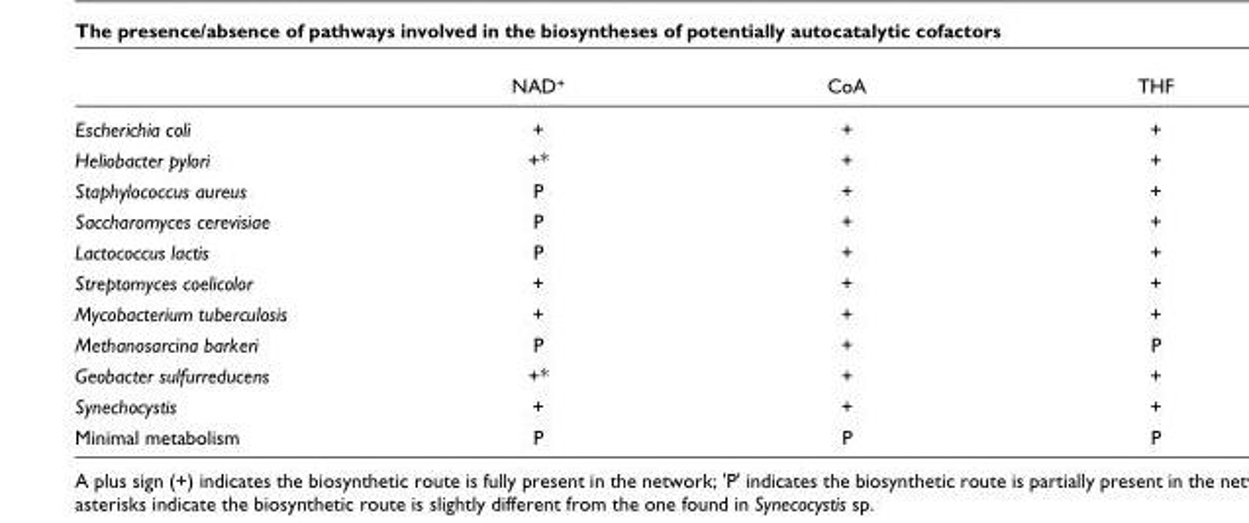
<table><thead><tr><td></td><td>NAD<sup>+</sup></td><td>CoA</td><td>THF</td></tr></thead><tbody><tr><td>Escherichia coli</td><td>+</td><td>+</td><td>+</td></tr><tr><td>Heliobacter pylori</td><td>+*</td><td>+</td><td>+</td></tr><tr><td>Staphylococcus aureus</td><td>P</td><td>+</td><td>+</td></tr><tr><td>Saccharomyces cerevisiae</td><td>P</td><td>+</td><td>+</td></tr><tr><td>Lactococcus lactis</td><td>P</td><td>+</td><td>+</td></tr><tr><td>Streptomyces coelicolor</td><td>+</td><td>+</td><td>+</td></tr><tr><td>Mycobacterium tuberculosis</td><td>+</td><td>+</td><td>+</td></tr><tr><td>Methanosarcina barkeri</td><td>P</td><td>+</td><td>P</td></tr><tr><td>Geobacter sulfurreducens</td><td>+*</td><td>+</td><td>+</td></tr><tr><td>Synechocystis</td><td>+</td><td>+</td><td>+</td></tr><tr><td>Minimal metabolism</td><td>P</td><td>P</td><td>P</td></tr></tbody></table>